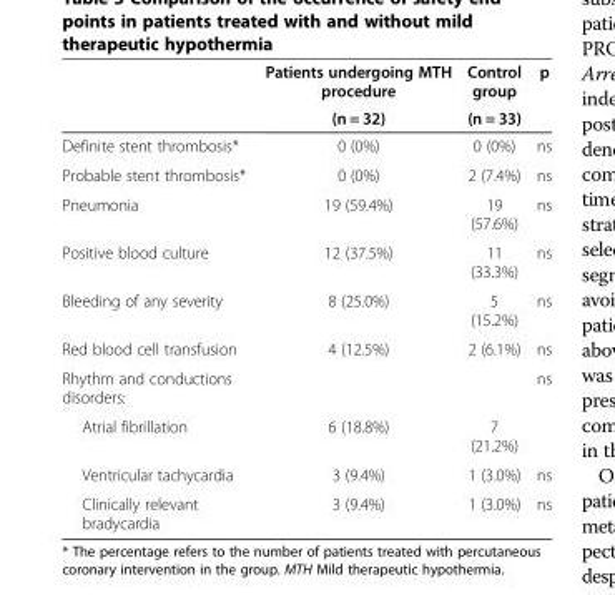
<table><thead><tr><td rowspan="2"></td><td rowspan="2">Patients undergoing MTH procedure (n = 32)</td><td rowspan="2">Control group (n = 33)</td><td rowspan="2">p</td></tr><tr></tr></thead><tbody><tr><td>Definite stent thrombosis*</td><td>0 (0%)</td><td>0 (0%)</td><td>ns</td></tr><tr><td>Probable stent thrombosis*</td><td>0 (0%)</td><td>2 (7.4%)</td><td>ns</td></tr><tr><td>Pneumonia</td><td>19 (59.4%)</td><td>19 (57.6%)</td><td>ns</td></tr><tr><td>Positive blood culture</td><td>12 (37.5%)</td><td>11 (33.3%)</td><td>ns</td></tr><tr><td>Bleeding of any severity</td><td>8 (25.0%)</td><td>5 (15.2%)</td><td>ns</td></tr><tr><td>Red blood cell transfusion</td><td>4 (12.5%)</td><td>2 (6.1%)</td><td>ns</td></tr><tr><td colspan="3">Rhythm and conductions disorders:</td><td rowspan="2">ns</td></tr><tr><td>Atrial fibrillation</td><td>6 (18.8%)</td><td>7 (21.2%)</td></tr><tr><td>Ventricular tachycardia</td><td>3 (9.4%)</td><td>1 (3.0%)</td><td>ns</td></tr><tr><td>Clinically relevant bradycardia</td><td>3 (9.4%)</td><td>1 (3.0%)</td><td>ns</td></tr></tbody></table>